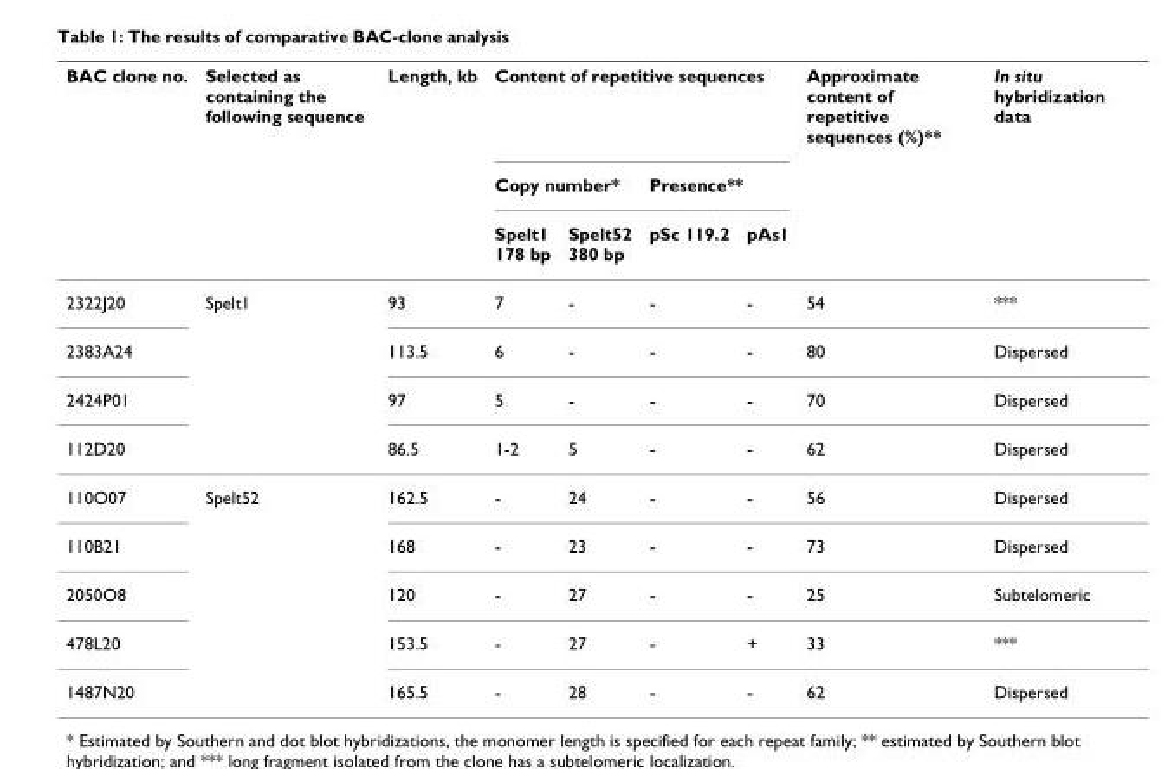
<table><thead><tr><td rowspan="3">BAC clone no.</td><td rowspan="3">Selected as containing the following sequence</td><td rowspan="3">Length, kb</td><td colspan="4">Content of repetitive sequences</td><td rowspan="3">Approximate content of repetitive sequences (%)**</td><td rowspan="3">In situ hybridization data</td></tr><tr><td colspan="2">Copy number*</td><td colspan="2">Presence**</td></tr><tr><td>Spelt1 178 bp</td><td>Spelt52 380 bp</td><td>pSc 119.2</td><td>pAs1</td></tr></thead><tbody><tr><td>2322J20</td><td>Spelt1</td><td>93</td><td>7</td><td>-</td><td>-</td><td>-</td><td>54</td><td>***</td></tr><tr><td>2383A24</td><td></td><td>113.5</td><td>6</td><td>-</td><td>-</td><td>-</td><td>80</td><td>Dispersed</td></tr><tr><td>2424P01</td><td></td><td>97</td><td>5</td><td>-</td><td>-</td><td>-</td><td>70</td><td>Dispersed</td></tr><tr><td>112D20</td><td></td><td>86.5</td><td>1-2</td><td>5</td><td>-</td><td>-</td><td>62</td><td>Dispersed</td></tr><tr><td>110O07</td><td>Spelt52</td><td>162.5</td><td>-</td><td>24</td><td>-</td><td>-</td><td>56</td><td>Dispersed</td></tr><tr><td>110B21</td><td></td><td>168</td><td>-</td><td>23</td><td>-</td><td>-</td><td>73</td><td>Dispersed</td></tr><tr><td>2050O8</td><td></td><td>120</td><td>-</td><td>27</td><td>-</td><td>-</td><td>25</td><td>Subtelomeric</td></tr><tr><td>478L20</td><td></td><td>153.5</td><td>-</td><td>27</td><td>-</td><td>+</td><td>33</td><td>***</td></tr><tr><td>1487N20</td><td></td><td>165.5</td><td>-</td><td>28</td><td>-</td><td>-</td><td>62</td><td>Dispersed</td></tr></tbody></table>